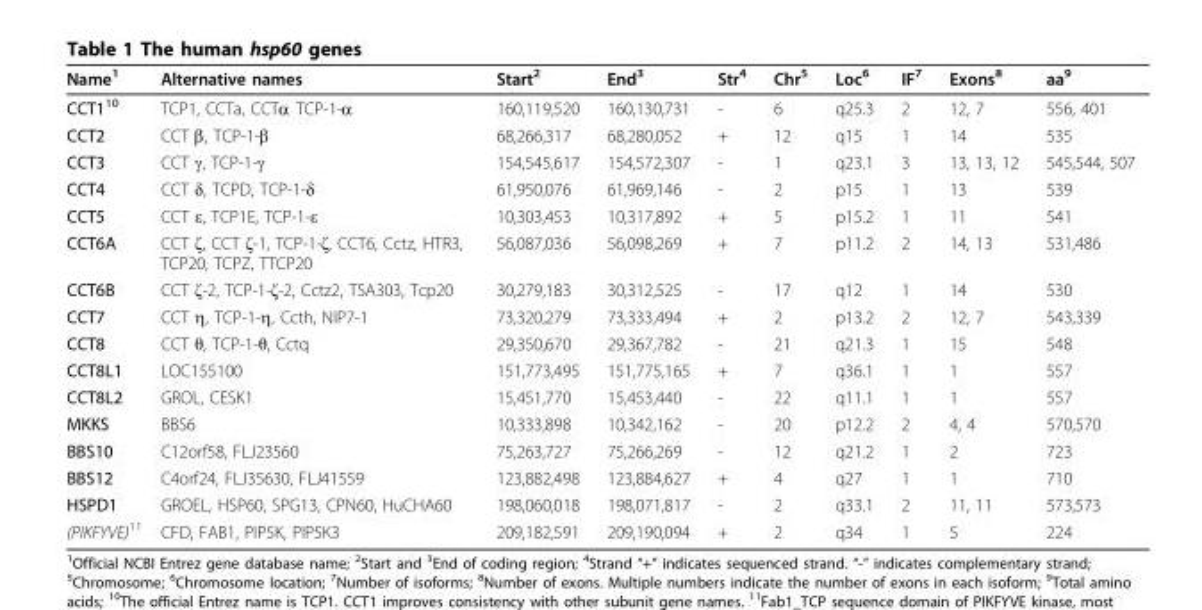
<table><thead><tr><td>Name<sup>1</sup></td><td>Alternative names</td><td>Start<sup>2</sup></td><td>End<sup>3</sup></td><td>Str<sup>4</sup></td><td>Chr<sup>5</sup></td><td>Loc<sup>6</sup></td><td>IF<sup>7</sup></td><td>Exons<sup>8</sup></td><td>aa<sup>9</sup></td></tr></thead><tbody><tr><td>CCT1<sup>10</sup></td><td>TCP1, CCTa, CCTα TCP-1-α</td><td>160,119,520</td><td>160,130,731</td><td>-</td><td>6</td><td>q25.3</td><td>2</td><td>12, 7</td><td>556, 401</td></tr><tr><td>CCT2</td><td>CCT β, TCP-1-β</td><td>68,266,317</td><td>68,280,052</td><td>+</td><td>12</td><td>q15</td><td>1</td><td>14</td><td>535</td></tr><tr><td>CCT3</td><td>CCT γ, TCP-1-γ</td><td>154,545,617</td><td>154,572,307</td><td>-</td><td>1</td><td>q23.1</td><td>3</td><td>13, 13, 12</td><td>545,544, 507</td></tr><tr><td>CCT4</td><td>CCT δ, TCPD, TCP-1-δ</td><td>61,950,076</td><td>61,969,146</td><td>-</td><td>2</td><td>p15</td><td>1</td><td>13</td><td>539</td></tr><tr><td>CCT5</td><td>CCT ε, TCP1E, TCP-1-ε</td><td>10,303,453</td><td>10,317,892</td><td>+</td><td>5</td><td>p15.2</td><td>1</td><td>11</td><td>541</td></tr><tr><td>CCT6A</td><td>CCT ζ, CCT ζ-1, TCP-1-ζ, CCT6, Cctz, HTR3, TCP20, TCPZ, TTCP20</td><td>56,087,036</td><td>56,098,269</td><td>+</td><td>7</td><td>p11.2</td><td>2</td><td>14, 13</td><td>531,486</td></tr><tr><td>CCT6B</td><td>CCT ζ-2, TCP-1-ζ-2, Cctz2, TSA303, Tcp20</td><td>30,279,183</td><td>30,312,525</td><td>-</td><td>17</td><td>q12</td><td>1</td><td>14</td><td>530</td></tr><tr><td>CCT7</td><td>CCT η, TCP-1-η, Ccth, NIP7-1</td><td>73,320,279</td><td>73,333,494</td><td>+</td><td>2</td><td>p13.2</td><td>2</td><td>12, 7</td><td>543,339</td></tr><tr><td>CCT8</td><td>CCT θ, TCP-1-θ, Cctq</td><td>29,350,670</td><td>29,367,782</td><td>-</td><td>21</td><td>q21.3</td><td>1</td><td>15</td><td>548</td></tr><tr><td>CCT8L1</td><td>LOC155100</td><td>151,773,495</td><td>151,775,165</td><td>+</td><td>7</td><td>q36.1</td><td>1</td><td>1</td><td>557</td></tr><tr><td>CCT8L2</td><td>GROL, CESK1</td><td>15,451,770</td><td>15,453,440</td><td>-</td><td>22</td><td>q11.1</td><td>1</td><td>1</td><td>557</td></tr><tr><td>MKKS</td><td>BBS6</td><td>10,333,898</td><td>10,342,162</td><td>-</td><td>20</td><td>p12.2</td><td>2</td><td>4, 4</td><td>570,570</td></tr><tr><td>BBS10</td><td>C12orf58, FLJ23560</td><td>75,263,727</td><td>75,266,269</td><td>-</td><td>12</td><td>q21.2</td><td>1</td><td>2</td><td>723</td></tr><tr><td>BBS12</td><td>C4orf24, FLJ35630, FLJ41559</td><td>123,882,498</td><td>123,884,627</td><td>+</td><td>4</td><td>q27</td><td>1</td><td>1</td><td>710</td></tr><tr><td>HSPD1</td><td>GROEL, HSP60, SPG13, CPN60, HuCHA60</td><td>198,060,018</td><td>198,071,817</td><td>-</td><td>2</td><td>q33.1</td><td>2</td><td>11, 11</td><td>573,573</td></tr><tr><td>(PIKFYVE)<sup>11</sup></td><td>CFD, FAB1, PIP5K, PIP5K3</td><td>209,182,591</td><td>209,190,094</td><td>+</td><td>2</td><td>q34</td><td>1</td><td>5</td><td>224</td></tr></tbody></table>